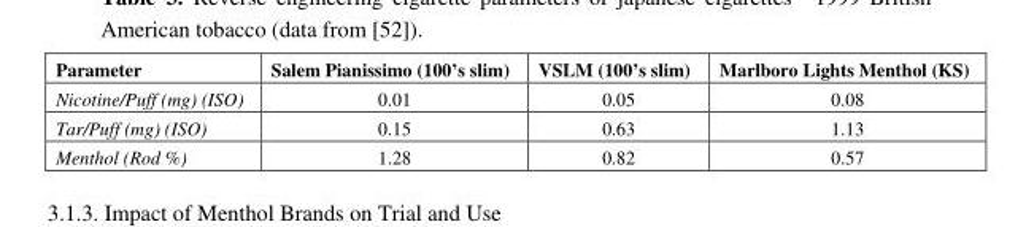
<table><thead><tr><td>Parameter</td><td>Salem Pianissimo (100’s slim)</td><td>VSLM (100’s slim)</td><td>Marlboro Lights Menthol (KS)</td></tr></thead><tbody><tr><td>Nicotine/Puff (mg) (ISO)</td><td>0.01</td><td>0.05</td><td>0.08</td></tr><tr><td>Tar/Puff (mg) (ISO)</td><td>0.15</td><td>0.63</td><td>1.13</td></tr><tr><td>Menthol (Rod %)</td><td>1.28</td><td>0.82</td><td>0.57</td></tr></tbody></table>